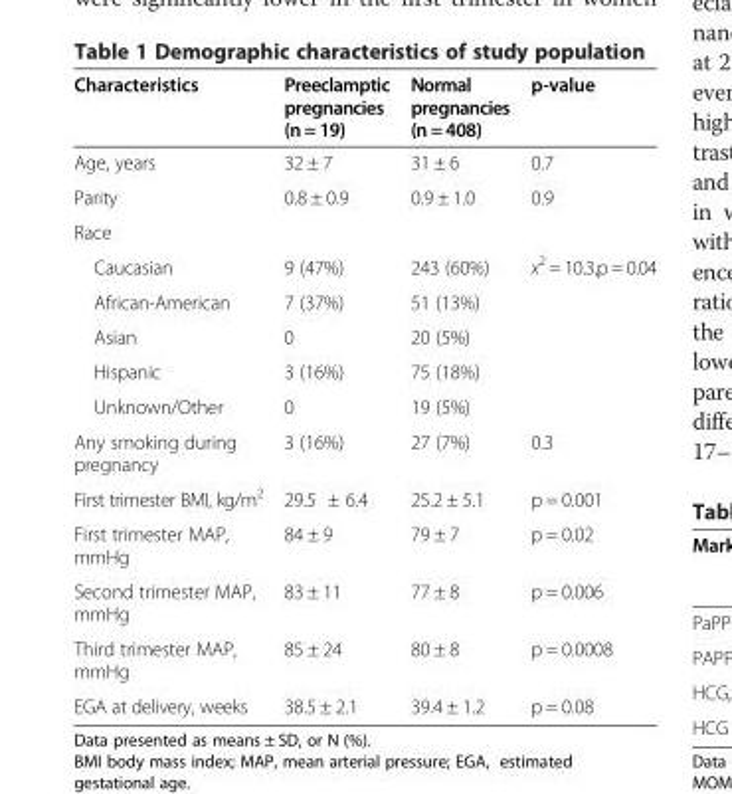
<table><thead><tr><td>Characteristics</td><td>Preeclamptic pregnancies (n = 19)</td><td>Normal pregnancies (n = 408)</td><td>p-value</td></tr></thead><tbody><tr><td>Age, years</td><td>32 ± 7</td><td>31 ± 6</td><td>0.7</td></tr><tr><td>Parity</td><td>0.8 ± 0.9</td><td>0.9 ± 1.0</td><td>0.9</td></tr><tr><td colspan="4">Race</td></tr><tr><td>Caucasian</td><td>9 (47%)</td><td>243 (60%)</td><td>x<sup>2</sup> = 10.3,p = 0.04</td></tr><tr><td>African-American</td><td>7 (37%)</td><td>51 (13%)</td><td></td></tr><tr><td>Asian</td><td>0</td><td>20 (5%)</td><td></td></tr><tr><td>Hispanic</td><td>3 (16%)</td><td>75 (18%)</td><td></td></tr><tr><td>Unknown/Other</td><td>0</td><td>19 (5%)</td><td></td></tr><tr><td>Any smoking during pregnancy</td><td>3 (16%)</td><td>27 (7%)</td><td>0.3</td></tr><tr><td>First trimester BMI, kg/m<sup>2</sup></td><td>29.5 ± 6.4</td><td>25.2 ± 5.1</td><td>p = 0.001</td></tr><tr><td>First trimester MAP, mmHg</td><td>84 ± 9</td><td>79 ± 7</td><td>p = 0.02</td></tr><tr><td>Second trimester MAP, mmHg</td><td>83 ± 11</td><td>77 ± 8</td><td>p = 0.006</td></tr><tr><td>Third trimester MAP, mmHg</td><td>85 ± 24</td><td>80 ± 8</td><td>p = 0.0008</td></tr><tr><td>EGA at delivery, weeks</td><td>38.5 ± 2.1</td><td>39.4 ± 1.2</td><td>p = 0.08</td></tr></tbody></table>